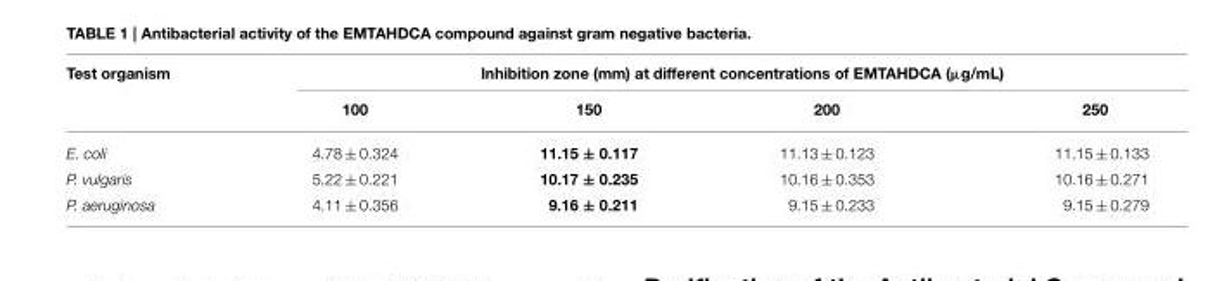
<table><thead><tr><td rowspan="2">Test organism</td><td colspan="4">Inhibition zone (mm) at different concentrations of EMTAHDCA (µg/mL)</td></tr><tr><td>100</td><td>150</td><td>200</td><td>250</td></tr></thead><tbody><tr><td>E. coli</td><td>4.78 ± 0.324</td><td>11.15 ± 0.117</td><td>11.13 ± 0.123</td><td>11.15 ± 0.133</td></tr><tr><td>P. vulgaris</td><td>5.22 ± 0.221</td><td>10.17 ± 0.235</td><td>10.16 ± 0.353</td><td>10.16 ± 0.271</td></tr><tr><td>P. aeruginosa</td><td>4.11 ± 0.356</td><td>9.16 ± 0.211</td><td>9.15 ± 0.233</td><td>9.15 ± 0.279</td></tr></tbody></table>